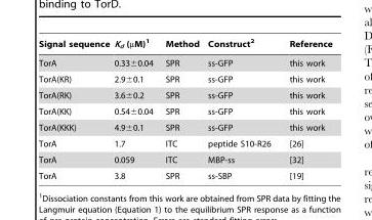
<table><thead><tr><td>Signal sequence</td><td>K<sub>d</sub> (µM)<sup>1</sup></td><td>Method</td><td>Construct<sup>2</sup></td><td>Reference</td></tr></thead><tbody><tr><td>TorA</td><td>0.33±0.04</td><td>SPR</td><td>ss-GFP</td><td>this work</td></tr><tr><td>TorA(KR)</td><td>2.9±0.1</td><td>SPR</td><td>ss-GFP</td><td>this work</td></tr><tr><td>TorA(RK)</td><td>3.6±0.2</td><td>SPR</td><td>ss-GFP</td><td>this work</td></tr><tr><td>TorA(KK)</td><td>0.54±0.04</td><td>SPR</td><td>ss-GFP</td><td>this work</td></tr><tr><td>TorA(KKK)</td><td>4.9±0.1</td><td>SPR</td><td>ss-GFP</td><td>this work</td></tr><tr><td>TorA</td><td>1.7</td><td>ITC</td><td>peptide S10-R26</td><td>[26]</td></tr><tr><td>TorA</td><td>0.059</td><td>ITC</td><td>MBP-ss</td><td>[32]</td></tr><tr><td>TorA</td><td>3.8</td><td>SPR</td><td>ss-SBP</td><td>[19]</td></tr></tbody></table>